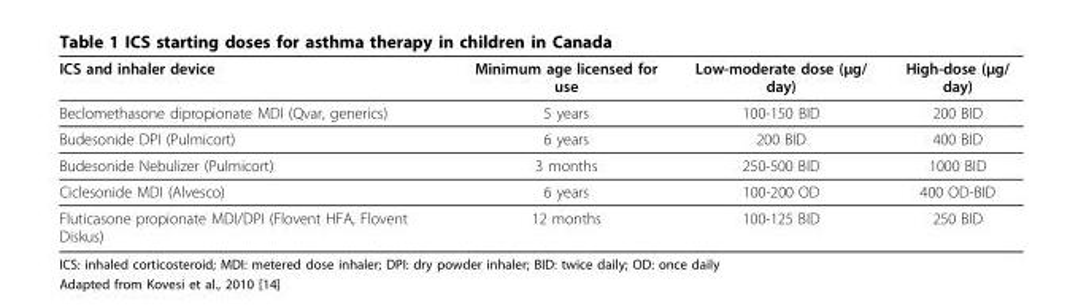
<table><thead><tr><td>ICS and inhaler device</td><td>Minimum age licensed for use</td><td>Low-moderate dose (μg/ day)</td><td>High-dose (μg/ day)</td></tr></thead><tbody><tr><td>Beclomethasone dipropionate MDI (Qvar, generics)</td><td>5 years</td><td>100-150 BID</td><td>200 BID</td></tr><tr><td>Budesonide DPI (Pulmicort)</td><td>6 years</td><td>200 BID</td><td>400 BID</td></tr><tr><td>Budesonide Nebulizer (Pulmicort)</td><td>3 months</td><td>250-500 BID</td><td>1000 BID</td></tr><tr><td>Ciclesonide MDI (Alvesco)</td><td>6 years</td><td>100-200 OD</td><td>400 OD-BID</td></tr><tr><td>Fluticasone propionate MDI/DPI (Flovent HFA, Flovent Diskus)</td><td>12 months</td><td>100-125 BID</td><td>250 BID</td></tr></tbody></table>